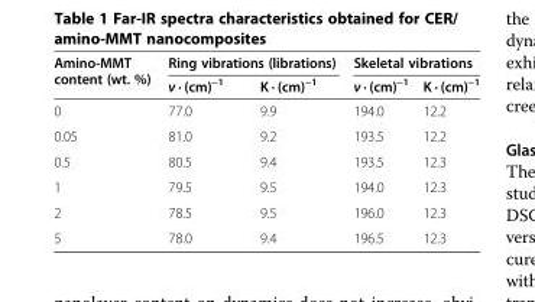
<table><thead><tr><td rowspan="2">Amino-MMT content (wt. %)</td><td colspan="2">Ring vibrations (librations)</td><td colspan="2">Skeletal vibrations</td></tr><tr><td>ν · (cm)<sup>−1</sup></td><td>K · (cm)<sup>−1</sup></td><td>ν · (cm)<sup>−1</sup></td><td>K · (cm)<sup>−1</sup></td></tr></thead><tbody><tr><td>0</td><td>77.0</td><td>9.9</td><td>194.0</td><td>12.2</td></tr><tr><td>0.05</td><td>81.0</td><td>9.2</td><td>193.5</td><td>12.2</td></tr><tr><td>0.5</td><td>80.5</td><td>9.4</td><td>193.5</td><td>12.3</td></tr><tr><td>1</td><td>79.5</td><td>9.5</td><td>194.0</td><td>12.3</td></tr><tr><td>2</td><td>78.5</td><td>9.5</td><td>196.0</td><td>12.3</td></tr><tr><td>5</td><td>78.0</td><td>9.4</td><td>196.5</td><td>12.3</td></tr></tbody></table>